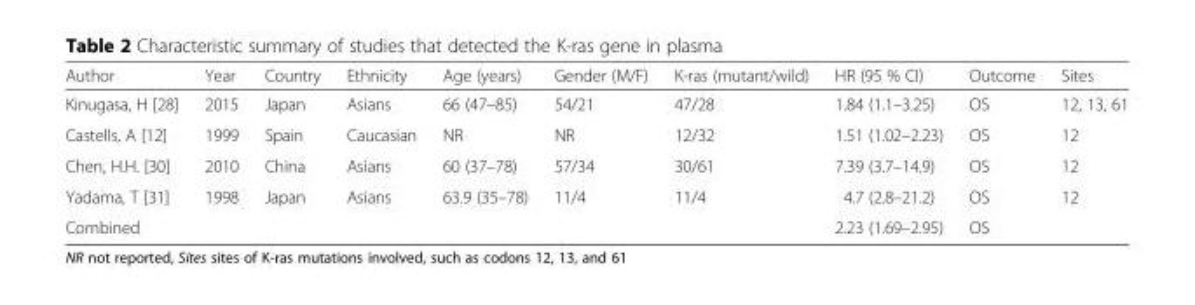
<table><thead><tr><td>Author</td><td>Year</td><td>Country</td><td>Ethnicity</td><td>Age (years)</td><td>Gender (M/F)</td><td>K-ras (mutant/wild)</td><td>HR (95 % CI)</td><td>Outcome</td><td>Sites</td></tr></thead><tbody><tr><td>Kinugasa, H [28]</td><td>2015</td><td>Japan</td><td>Asians</td><td>66 (47–85)</td><td>54/21</td><td>47/28</td><td>1.84 (1.1–3.25)</td><td>OS</td><td>12, 13, 61</td></tr><tr><td>Castells, A [12]</td><td>1999</td><td>Spain</td><td>Caucasian</td><td>NR</td><td>NR</td><td>12/32</td><td>1.51 (1.02–2.23)</td><td>OS</td><td>12</td></tr><tr><td>Chen, H.H. [30]</td><td>2010</td><td>China</td><td>Asians</td><td>60 (37–78)</td><td>57/34</td><td>30/61</td><td>7.39 (3.7–14.9)</td><td>OS</td><td>12</td></tr><tr><td>Yadama, T [31]</td><td>1998</td><td>Japan</td><td>Asians</td><td>63.9 (35–78)</td><td>11/4</td><td>11/4</td><td>4.7 (2.8–21.2)</td><td>OS</td><td>12</td></tr><tr><td>Combined</td><td></td><td></td><td></td><td></td><td></td><td></td><td>2.23 (1.69–2.95)</td><td>OS</td><td></td></tr></tbody></table>